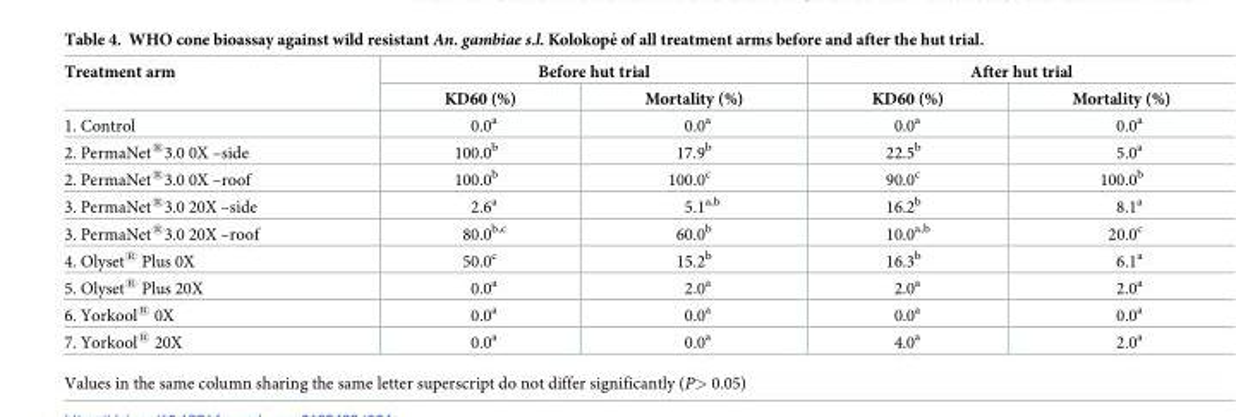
<table><thead><tr><td rowspan="2">Treatment arm</td><td colspan="2">Before hut trial</td><td colspan="2">After hut trial</td></tr><tr><td>KD60 (%)</td><td>Mortality (%)</td><td>KD60 (%)</td><td>Mortality (%)</td></tr></thead><tbody><tr><td>1. Control</td><td>0.0<sup>a</sup></td><td>0.0<sup>a</sup></td><td>0.0<sup>a</sup></td><td>0.0<sup>a</sup></td></tr><tr><td>2. PermaNet<sup>®</sup>3.0 0X –side</td><td>100.0<sup>b</sup></td><td>17.9<sup>b</sup></td><td>22.5<sup>b</sup></td><td>5.0<sup>a</sup></td></tr><tr><td>2. PermaNet<sup>®</sup>3.0 0X –roof</td><td>100.0<sup>b</sup></td><td>100.0<sup>c</sup></td><td>90.0<sup>c</sup></td><td>100.0<sup>b</sup></td></tr><tr><td>3. PermaNet<sup>®</sup>3.0 20X –side</td><td>2.6<sup>a</sup></td><td>5.1<sup>a,b</sup></td><td>16.2<sup>b</sup></td><td>8.1<sup>a</sup></td></tr><tr><td>3. PermaNet<sup>®</sup>3.0 20X –roof</td><td>80.0<sup>b,c</sup></td><td>60.0<sup>b</sup></td><td>10.0<sup>a,b</sup></td><td>20.0<sup>c</sup></td></tr><tr><td>4. Olyset<sup>®</sup> Plus 0X</td><td>50.0<sup>c</sup></td><td>15.2<sup>b</sup></td><td>16.3<sup>b</sup></td><td>6.1<sup>a</sup></td></tr><tr><td>5. Olyset<sup>®</sup> Plus 20X</td><td>0.0<sup>a</sup></td><td>2.0<sup>a</sup></td><td>2.0<sup>a</sup></td><td>2.0<sup>a</sup></td></tr><tr><td>6. Yorkool<sup>®</sup> 0X</td><td>0.0<sup>a</sup></td><td>0.0<sup>a</sup></td><td>0.0<sup>a</sup></td><td>0.0<sup>a</sup></td></tr><tr><td>7. Yorkool<sup>®</sup> 20X</td><td>0.0<sup>a</sup></td><td>0.0<sup>a</sup></td><td>4.0<sup>a</sup></td><td>2.0<sup>a</sup></td></tr></tbody></table>